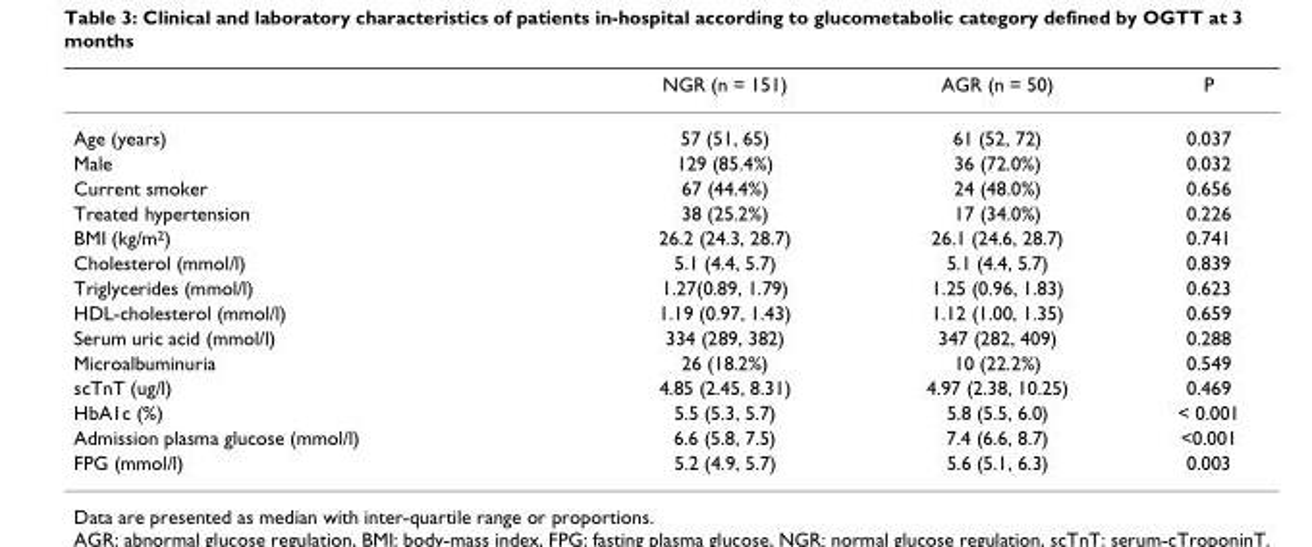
<table><thead><tr><td></td><td>NGR (n = 151)</td><td>AGR (n = 50)</td><td>P</td></tr></thead><tbody><tr><td>Age (years)</td><td>57 (51, 65)</td><td>61 (52, 72)</td><td>0.037</td></tr><tr><td>Male</td><td>129 (85.4%)</td><td>36 (72.0%)</td><td>0.032</td></tr><tr><td>Current smoker</td><td>67 (44.4%)</td><td>24 (48.0%)</td><td>0.656</td></tr><tr><td>Treated hypertension</td><td>38 (25.2%)</td><td>17 (34.0%)</td><td>0.226</td></tr><tr><td>BMI (kg/m<sup>2</sup>)</td><td>26.2 (24.3, 28.7)</td><td>26.1 (24.6, 28.7)</td><td>0.741</td></tr><tr><td>Cholesterol (mmol/l)</td><td>5.1 (4.4, 5.7)</td><td>5.1 (4.4, 5.7)</td><td>0.839</td></tr><tr><td>Triglycerides (mmol/l)</td><td>1.27(0.89, 1.79)</td><td>1.25 (0.96, 1.83)</td><td>0.623</td></tr><tr><td>HDL-cholesterol (mmol/l)</td><td>1.19 (0.97, 1.43)</td><td>1.12 (1.00, 1.35)</td><td>0.659</td></tr><tr><td>Serum uric acid (mmol/l)</td><td>334 (289, 382)</td><td>347 (282, 409)</td><td>0.288</td></tr><tr><td>Microalbuminuria</td><td>26 (18.2%)</td><td>10 (22.2%)</td><td>0.549</td></tr><tr><td>scTnT (ug/l)</td><td>4.85 (2.45, 8.31)</td><td>4.97 (2.38, 10.25)</td><td>0.469</td></tr><tr><td>HbA1c (%)</td><td>5.5 (5.3, 5.7)</td><td>5.8 (5.5, 6.0)</td><td>&lt; 0.001</td></tr><tr><td>Admission plasma glucose (mmol/l)</td><td>6.6 (5.8, 7.5)</td><td>7.4 (6.6, 8.7)</td><td>&lt;0.001</td></tr><tr><td>FPG (mmol/l)</td><td>5.2 (4.9, 5.7)</td><td>5.6 (5.1, 6.3)</td><td>0.003</td></tr></tbody></table>